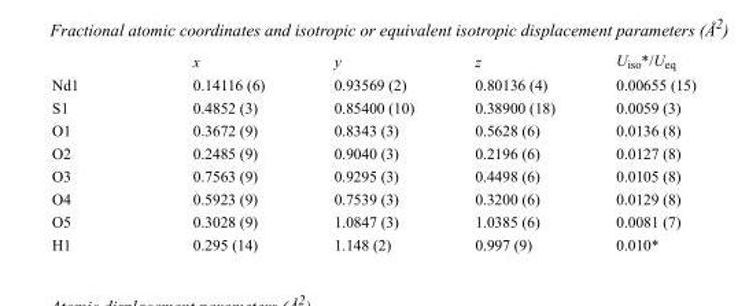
<table><thead><tr><td></td><td>x</td><td>y</td><td>z</td><td>U<sub>iso</sub>*/U<sub>eq</sub></td></tr></thead><tbody><tr><td>Nd1</td><td>0.14116 (6)</td><td>0.93569 (2)</td><td>0.80136 (4)</td><td>0.00655 (15)</td></tr><tr><td>S1</td><td>0.4852 (3)</td><td>0.85400 (10)</td><td>0.38900 (18)</td><td>0.0059 (3)</td></tr><tr><td>O1</td><td>0.3672 (9)</td><td>0.8343 (3)</td><td>0.5628 (6)</td><td>0.0136 (8)</td></tr><tr><td>O2</td><td>0.2485 (9)</td><td>0.9040 (3)</td><td>0.2196 (6)</td><td>0.0127 (8)</td></tr><tr><td>O3</td><td>0.7563 (9)</td><td>0.9295 (3)</td><td>0.4498 (6)</td><td>0.0105 (8)</td></tr><tr><td>O4</td><td>0.5923 (9)</td><td>0.7539 (3)</td><td>0.3200 (6)</td><td>0.0129 (8)</td></tr><tr><td>O5</td><td>0.3028 (9)</td><td>1.0847 (3)</td><td>1.0385 (6)</td><td>0.0081 (7)</td></tr><tr><td>H1</td><td>0.295 (14)</td><td>1.148 (2)</td><td>0.997 (9)</td><td>0.010*</td></tr></tbody></table>